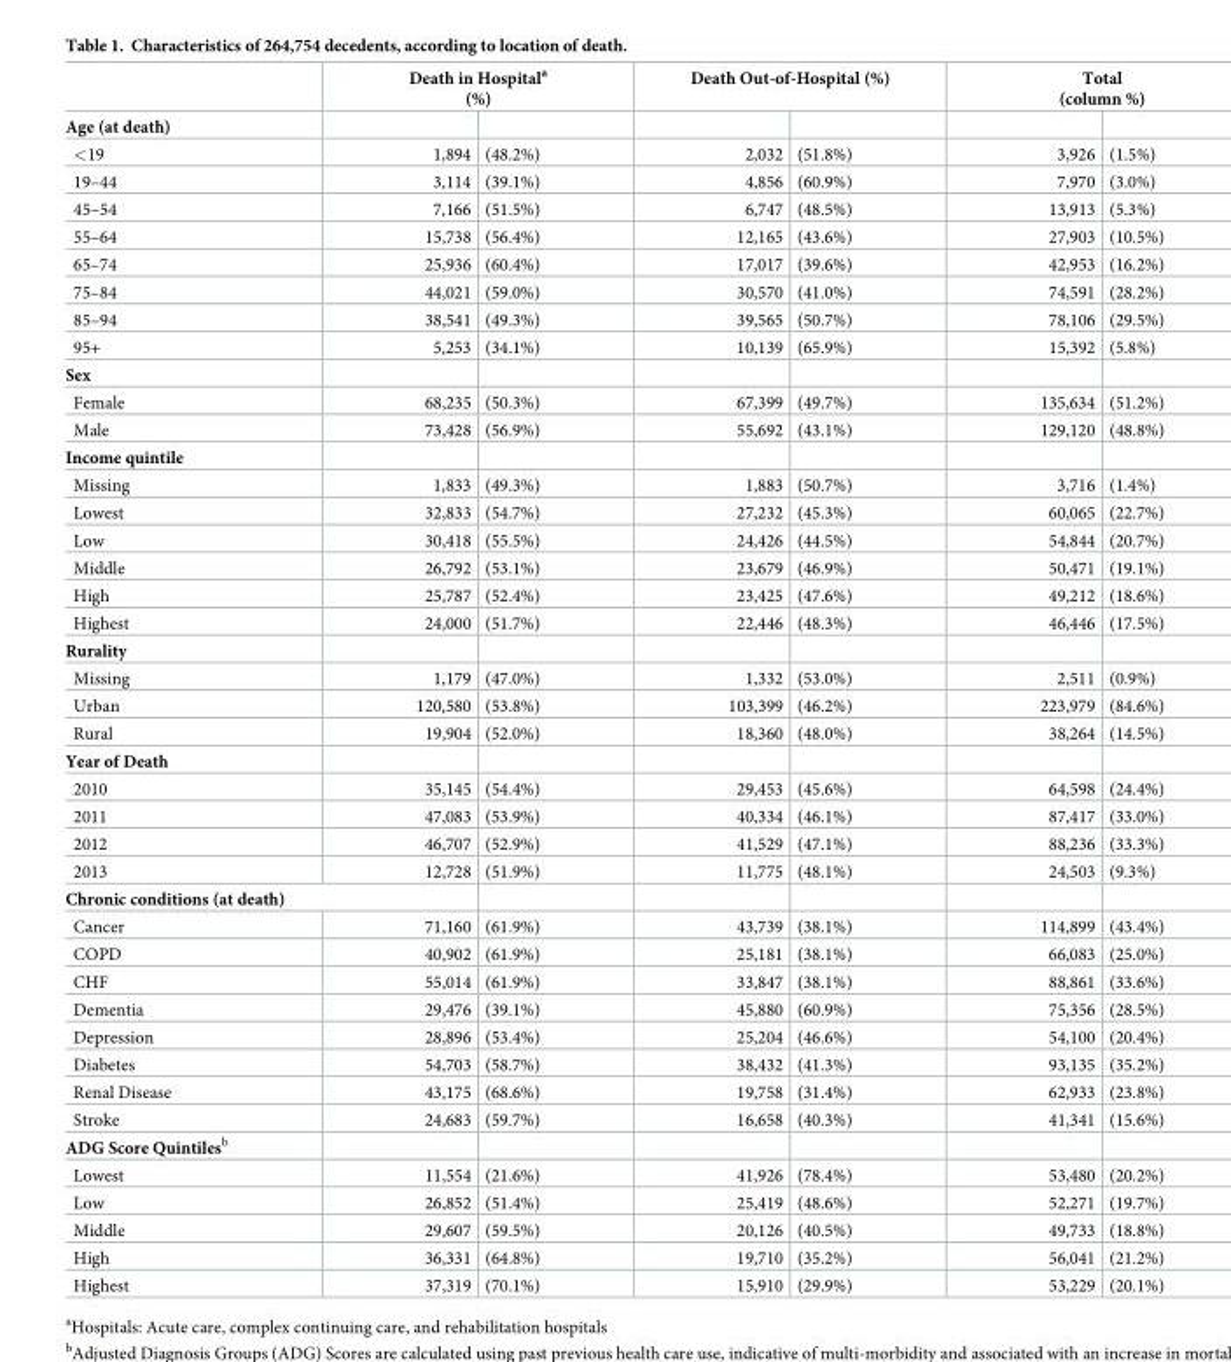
<table><thead><tr><td rowspan="2">Age (at death)</td><td colspan="2">Death in Hospital<sup>a</sup> (%)</td><td colspan="2">Death Out-of-Hospital (%)</td><td colspan="2">Total (column %)</td></tr><tr><td></td><td></td><td></td><td></td><td></td><td></td></tr></thead><tbody><tr><td>&lt;19</td><td>1,894</td><td>(48.2%)</td><td>2,032</td><td>(51.8%)</td><td>3,926</td><td>(1.5%)</td></tr><tr><td>19–44</td><td>3,114</td><td>(39.1%)</td><td>4,856</td><td>(60.9%)</td><td>7,970</td><td>(3.0%)</td></tr><tr><td>45–54</td><td>7,166</td><td>(51.5%)</td><td>6,747</td><td>(48.5%)</td><td>13,913</td><td>(5.3%)</td></tr><tr><td>55–64</td><td>15,738</td><td>(56.4%)</td><td>12,165</td><td>(43.6%)</td><td>27,903</td><td>(10.5%)</td></tr><tr><td>65–74</td><td>25,936</td><td>(60.4%)</td><td>17,017</td><td>(39.6%)</td><td>42,953</td><td>(16.2%)</td></tr><tr><td>75–84</td><td>44,021</td><td>(59.0%)</td><td>30,570</td><td>(41.0%)</td><td>74,591</td><td>(28.2%)</td></tr><tr><td>85–94</td><td>38,541</td><td>(49.3%)</td><td>39,565</td><td>(50.7%)</td><td>78,106</td><td>(29.5%)</td></tr><tr><td>95+</td><td>5,253</td><td>(34.1%)</td><td>10,139</td><td>(65.9%)</td><td>15,392</td><td>(5.8%)</td></tr><tr><td colspan="7">Sex</td></tr><tr><td>Female</td><td>68,235</td><td>(50.3%)</td><td>67,399</td><td>(49.7%)</td><td>135,634</td><td>(51.2%)</td></tr><tr><td>Male</td><td>73,428</td><td>(56.9%)</td><td>55,692</td><td>(43.1%)</td><td>129,120</td><td>(48.8%)</td></tr><tr><td colspan="7">Income quintile</td></tr><tr><td>Missing</td><td>1,833</td><td>(49.3%)</td><td>1,883</td><td>(50.7%)</td><td>3,716</td><td>(1.4%)</td></tr><tr><td>Lowest</td><td>32,833</td><td>(54.7%)</td><td>27,232</td><td>(45.3%)</td><td>60,065</td><td>(22.7%)</td></tr><tr><td>Low</td><td>30,418</td><td>(55.5%)</td><td>24,426</td><td>(44.5%)</td><td>54,844</td><td>(20.7%)</td></tr><tr><td>Middle</td><td>26,792</td><td>(53.1%)</td><td>23,679</td><td>(46.9%)</td><td>50,471</td><td>(19.1%)</td></tr><tr><td>High</td><td>25,787</td><td>(52.4%)</td><td>23,425</td><td>(47.6%)</td><td>49,212</td><td>(18.6%)</td></tr><tr><td>Highest</td><td>24,000</td><td>(51.7%)</td><td>22,446</td><td>(48.3%)</td><td>46,446</td><td>(17.5%)</td></tr><tr><td colspan="7">Rurality</td></tr><tr><td>Missing</td><td>1,179</td><td>(47.0%)</td><td>1,332</td><td>(53.0%)</td><td>2,511</td><td>(0.9%)</td></tr><tr><td>Urban</td><td>120,580</td><td>(53.8%)</td><td>103,399</td><td>(46.2%)</td><td>223,979</td><td>(84.6%)</td></tr><tr><td>Rural</td><td>19,904</td><td>(52.0%)</td><td>18,360</td><td>(48.0%)</td><td>38,264</td><td>(14.5%)</td></tr><tr><td colspan="7">Year of Death</td></tr><tr><td>2010</td><td>35,145</td><td>(54.4%)</td><td>29,453</td><td>(45.6%)</td><td>64,598</td><td>(24.4%)</td></tr><tr><td>2011</td><td>47,083</td><td>(53.9%)</td><td>40,334</td><td>(46.1%)</td><td>87,417</td><td>(33.0%)</td></tr><tr><td>2012</td><td>46,707</td><td>(52.9%)</td><td>41,529</td><td>(47.1%)</td><td>88,236</td><td>(33.3%)</td></tr><tr><td>2013</td><td>12,728</td><td>(51.9%)</td><td>11,775</td><td>(48.1%)</td><td>24,503</td><td>(9.3%)</td></tr><tr><td colspan="7">Chronic conditions (at death)</td></tr><tr><td>Cancer</td><td>71,160</td><td>(61.9%)</td><td>43,739</td><td>(38.1%)</td><td>114,899</td><td>(43.4%)</td></tr><tr><td>COPD</td><td>40,902</td><td>(61.9%)</td><td>25,181</td><td>(38.1%)</td><td>66,083</td><td>(25.0%)</td></tr><tr><td>CHF</td><td>55,014</td><td>(61.9%)</td><td>33,847</td><td>(38.1%)</td><td>88,861</td><td>(33.6%)</td></tr><tr><td>Dementia</td><td>29,476</td><td>(39.1%)</td><td>45,880</td><td>(60.9%)</td><td>75,356</td><td>(28.5%)</td></tr><tr><td>Depression</td><td>28,896</td><td>(53.4%)</td><td>25,204</td><td>(46.6%)</td><td>54,100</td><td>(20.4%)</td></tr><tr><td>Diabetes</td><td>54,703</td><td>(58.7%)</td><td>38,432</td><td>(41.3%)</td><td>93,135</td><td>(35.2%)</td></tr><tr><td>Renal Disease</td><td>43,175</td><td>(68.6%)</td><td>19,758</td><td>(31.4%)</td><td>62,933</td><td>(23.8%)</td></tr><tr><td>Stroke</td><td>24,683</td><td>(59.7%)</td><td>16,658</td><td>(40.3%)</td><td>41,341</td><td>(15.6%)</td></tr><tr><td colspan="7">ADG Score Quintiles<sup>b</sup></td></tr><tr><td>Lowest</td><td>11,554</td><td>(21.6%)</td><td>41,926</td><td>(78.4%)</td><td>53,480</td><td>(20.2%)</td></tr><tr><td>Low</td><td>26,852</td><td>(51.4%)</td><td>25,419</td><td>(48.6%)</td><td>52,271</td><td>(19.7%)</td></tr><tr><td>Middle</td><td>29,607</td><td>(59.5%)</td><td>20,126</td><td>(40.5%)</td><td>49,733</td><td>(18.8%)</td></tr><tr><td>High</td><td>36,331</td><td>(64.8%)</td><td>19,710</td><td>(35.2%)</td><td>56,041</td><td>(21.2%)</td></tr><tr><td>Highest</td><td>37,319</td><td>(70.1%)</td><td>15,910</td><td>(29.9%)</td><td>53,229</td><td>(20.1%)</td></tr></tbody></table>